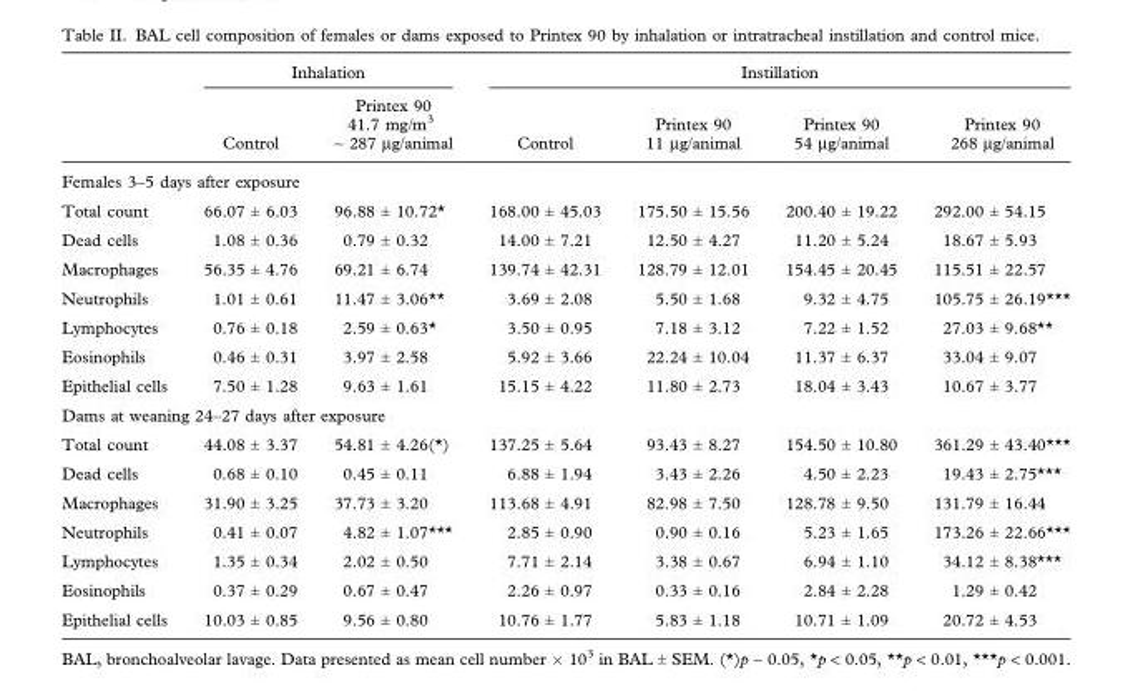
<table><thead><tr><td rowspan="2"></td><td colspan="2">Inhalation</td><td colspan="4">Instillation</td></tr><tr><td>Control</td><td>Printex 90 41.7 mg/m3 ~ 287 mg/animal</td><td>Control</td><td>Printex 90 11 mg/animal</td><td>Printex 90 54 mg/animal</td><td>Printex 90 268 mg/animal</td></tr></thead><tbody><tr><td colspan="7">Females 3–5 days after exposure</td></tr><tr><td>Total count</td><td>66.07 ± 6.03</td><td>96.88 ± 10.72*</td><td>168.00 ± 45.03</td><td>175.50 ± 15.56</td><td>200.40 ± 19.22</td><td>292.00 ± 54.15</td></tr><tr><td>Dead cells</td><td>1.08 ± 0.36</td><td>0.79 ± 0.32</td><td>14.00 ± 7.21</td><td>12.50 ± 4.27</td><td>11.20 ± 5.24</td><td>18.67 ± 5.93</td></tr><tr><td>Macrophages</td><td>56.35 ± 4.76</td><td>69.21 ± 6.74</td><td>139.74 ± 42.31</td><td>128.79 ± 12.01</td><td>154.45 ± 20.45</td><td>115.51 ± 22.57</td></tr><tr><td>Neutrophils</td><td>1.01 ± 0.61</td><td>11.47 ± 3.06**</td><td>3.69 ± 2.08</td><td>5.50 ± 1.68</td><td>9.32 ± 4.75</td><td>105.75 ± 26.19***</td></tr><tr><td>Lymphocytes</td><td>0.76 ± 0.18</td><td>2.59 ± 0.63*</td><td>3.50 ± 0.95</td><td>7.18 ± 3.12</td><td>7.22 ± 1.52</td><td>27.03 ± 9.68**</td></tr><tr><td>Eosinophils</td><td>0.46 ± 0.31</td><td>3.97 ± 2.58</td><td>5.92 ± 3.66</td><td>22.24 ± 10.04</td><td>11.37 ± 6.37</td><td>33.04 ± 9.07</td></tr><tr><td>Epithelial cells</td><td>7.50 ± 1.28</td><td>9.63 ± 1.61</td><td>15.15 ± 4.22</td><td>11.80 ± 2.73</td><td>18.04 ± 3.43</td><td>10.67 ± 3.77</td></tr><tr><td colspan="7">Dams at weaning 24–27 days after exposure</td></tr><tr><td>Total count</td><td>44.08 ± 3.37</td><td>54.81 ± 4.26(*)</td><td>137.25 ± 5.64</td><td>93.43 ± 8.27</td><td>154.50 ± 10.80</td><td>361.29 ± 43.40***</td></tr><tr><td>Dead cells</td><td>0.68 ± 0.10</td><td>0.45 ± 0.11</td><td>6.88 ± 1.94</td><td>3.43 ± 2.26</td><td>4.50 ± 2.23</td><td>19.43 ± 2.75***</td></tr><tr><td>Macrophages</td><td>31.90 ± 3.25</td><td>37.73 ± 3.20</td><td>113.68 ± 4.91</td><td>82.98 ± 7.50</td><td>128.78 ± 9.50</td><td>131.79 ± 16.44</td></tr><tr><td>Neutrophils</td><td>0.41 ± 0.07</td><td>4.82 ± 1.07***</td><td>2.85 ± 0.90</td><td>0.90 ± 0.16</td><td>5.23 ± 1.65</td><td>173.26 ± 22.66***</td></tr><tr><td>Lymphocytes</td><td>1.35 ± 0.34</td><td>2.02 ± 0.50</td><td>7.71 ± 2.14</td><td>3.38 ± 0.67</td><td>6.94 ± 1.10</td><td>34.12 ± 8.38***</td></tr><tr><td>Eosinophils</td><td>0.37 ± 0.29</td><td>0.67 ± 0.47</td><td>2.26 ± 0.97</td><td>0.33 ± 0.16</td><td>2.84 ± 2.28</td><td>1.29 ± 0.42</td></tr><tr><td>Epithelial cells</td><td>10.03 ± 0.85</td><td>9.56 ± 0.80</td><td>10.76 ± 1.77</td><td>5.83 ± 1.18</td><td>10.71 ± 1.09</td><td>20.72 ± 4.53</td></tr></tbody></table>